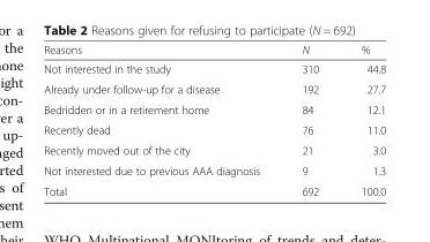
<table><thead><tr><td>Reasons</td><td>N</td><td>%</td></tr></thead><tbody><tr><td>Not interested in the study</td><td>310</td><td>44.8</td></tr><tr><td>Already under follow-up for a disease</td><td>192</td><td>27.7</td></tr><tr><td>Bedridden or in a retirement home</td><td>84</td><td>12.1</td></tr><tr><td>Recently dead</td><td>76</td><td>11.0</td></tr><tr><td>Recently moved out of the city</td><td>21</td><td>3.0</td></tr><tr><td>Not interested due to previous AAA diagnosis</td><td>9</td><td>1.3</td></tr><tr><td>Total</td><td>692</td><td>100.0</td></tr></tbody></table>